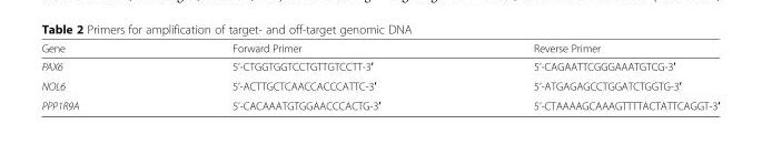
<table><thead><tr><td>Gene</td><td>Forward Primer</td><td>Reverse Primer</td></tr></thead><tbody><tr><td>PAX6</td><td>5’-CTGGTGGTCCTGTTGTCCTT-3′</td><td>5’-CAGAATTCGGGAAATGTCG-3′</td></tr><tr><td>NOL6</td><td>5’-ACTTGCTCAACCACCCATTC-3′</td><td>5’-ATGAGAGCCTGGATCTGGTG-3′</td></tr><tr><td>PPP1R9A</td><td>5’-CACAAATGTGGAACCCACTG-3′</td><td>5’-CTAAAAGCAAAGTTTTACTATTCAGGT-3′</td></tr></tbody></table>